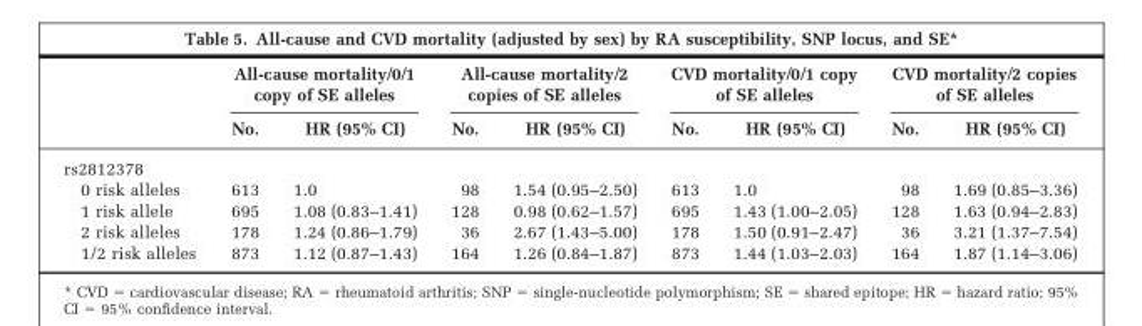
<table><thead><tr><td rowspan="2"></td><td colspan="2">All-cause mortality/0/1 copy of SE alleles</td><td colspan="2">All-cause mortality/2 copies of SE alleles</td><td colspan="2">CVD mortality/0/1 copy of SE alleles</td><td colspan="2">CVD mortality/2 copies of SE alleles</td></tr><tr><td>No.</td><td>HR (95% CI)</td><td>No.</td><td>HR (95% CI)</td><td>No.</td><td>HR (95% CI)</td><td>No.</td><td>HR (95% CI)</td></tr></thead><tbody><tr><td colspan="9">rs2812378</td></tr><tr><td>0 risk alleles</td><td>613</td><td>1.0</td><td>98</td><td>1.54 (0.95–2.50)</td><td>613</td><td>1.0</td><td>98</td><td>1.69 (0.85–3.36)</td></tr><tr><td>1 risk allele</td><td>695</td><td>1.08 (0.83–1.41)</td><td>128</td><td>0.98 (0.62–1.57)</td><td>695</td><td>1.43 (1.00–2.05)</td><td>128</td><td>1.63 (0.94–2.83)</td></tr><tr><td>2 risk alleles</td><td>178</td><td>1.24 (0.86–1.79)</td><td>36</td><td>2.67 (1.43–5.00)</td><td>178</td><td>1.50 (0.91–2.47)</td><td>36</td><td>3.21 (1.37–7.54)</td></tr><tr><td>1/2 risk alleles</td><td>873</td><td>1.12 (0.87–1.43)</td><td>164</td><td>1.26 (0.84–1.87)</td><td>873</td><td>1.44 (1.03–2.03)</td><td>164</td><td>1.87 (1.14–3.06)</td></tr></tbody></table>